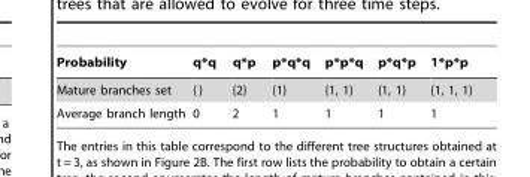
<table><thead><tr><td>Probability</td><td>q*q</td><td>q*p</td><td>p*q*q</td><td>p*p*q</td><td>p*q*p</td><td>1*p*p</td></tr></thead><tbody><tr><td>Mature branches set</td><td>{ }</td><td>{2}</td><td>{1}</td><td>{1, 1}</td><td>{1, 1}</td><td>{1, 1, 1}</td></tr><tr><td>Average branch length</td><td>0</td><td>2</td><td>1</td><td>1</td><td>1</td><td>1</td></tr></tbody></table>